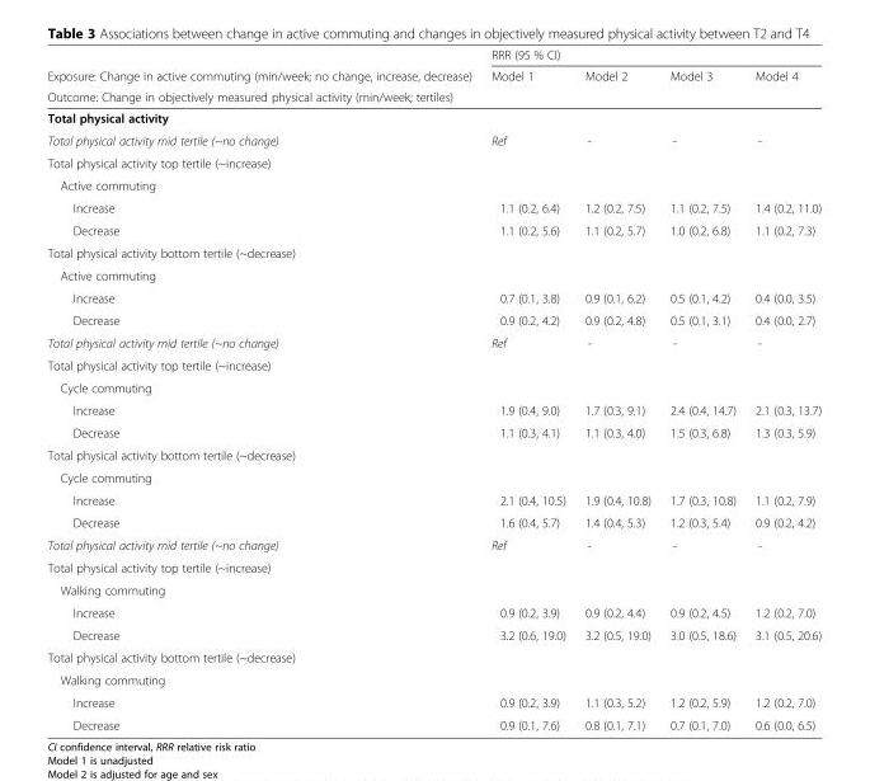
<table><thead><tr><td rowspan="3">Exposure: Change in active commuting (min/week; no change, increase, decrease) Outcome: Change in objectively measured physical activity (min/week; tertiles)</td><td colspan="4">RRR (95 % CI)</td></tr><tr><td rowspan="2">Model 1</td><td rowspan="2">Model 2</td><td rowspan="2">Model 3</td><td rowspan="2">Model 4</td></tr><tr></tr></thead><tbody><tr><td colspan="5">Total physical activity</td></tr><tr><td>Total physical activity mid tertile (~no change)</td><td>Ref</td><td>-</td><td>-</td><td>-</td></tr><tr><td colspan="5">Total physical activity top tertile (~increase)</td></tr><tr><td colspan="5">Active commuting</td></tr><tr><td>Increase</td><td>1.1 (0.2, 6.4)</td><td>1.2 (0.2, 7.5)</td><td>1.1 (0.2, 7.5)</td><td>1.4 (0.2, 11.0)</td></tr><tr><td>Decrease</td><td>1.1 (0.2, 5.6)</td><td>1.1 (0.2, 5.7)</td><td>1.0 (0.2, 6.8)</td><td>1.1 (0.2, 7.3)</td></tr><tr><td colspan="5">Total physical activity bottom tertile (~decrease)</td></tr><tr><td colspan="5">Active commuting</td></tr><tr><td>Increase</td><td>0.7 (0.1, 3.8)</td><td>0.9 (0.1, 6.2)</td><td>0.5 (0.1, 4.2)</td><td>0.4 (0.0, 3.5)</td></tr><tr><td>Decrease</td><td>0.9 (0.2, 4.2)</td><td>0.9 (0.2, 4.8)</td><td>0.5 (0.1, 3.1)</td><td>0.4 (0.0, 2.7)</td></tr><tr><td>Total physical activity mid tertile (~no change)</td><td>Ref</td><td>-</td><td>-</td><td>-</td></tr><tr><td colspan="5">Total physical activity top tertile (~increase)</td></tr><tr><td colspan="5">Cycle commuting</td></tr><tr><td>Increase</td><td>1.9 (0.4, 9.0)</td><td>1.7 (0.3, 9.1)</td><td>2.4 (0.4, 14.7)</td><td>2.1 (0.3, 13.7)</td></tr><tr><td>Decrease</td><td>1.1 (0.3, 4.1)</td><td>1.1 (0.3, 4.0)</td><td>1.5 (0.3, 6.8)</td><td>1.3 (0.3, 5.9)</td></tr><tr><td colspan="5">Total physical activity bottom tertile (~decrease)</td></tr><tr><td colspan="5">Cycle commuting</td></tr><tr><td>Increase</td><td>2.1 (0.4, 10.5)</td><td>1.9 (0.4, 10.8)</td><td>1.7 (0.3, 10.8)</td><td>1.1 (0.2, 7.9)</td></tr><tr><td>Decrease</td><td>1.6 (0.4, 5.7)</td><td>1.4 (0.4, 5.3)</td><td>1.2 (0.3, 5.4)</td><td>0.9 (0.2, 4.2)</td></tr><tr><td>Total physical activity mid tertile (~no change)</td><td>Ref</td><td>-</td><td>-</td><td>-</td></tr><tr><td colspan="5">Total physical activity top tertile (~increase)</td></tr><tr><td colspan="5">Walking commuting</td></tr><tr><td>Increase</td><td>0.9 (0.2, 3.9)</td><td>0.9 (0.2, 4.4)</td><td>0.9 (0.2, 4.5)</td><td>1.2 (0.2, 7.0)</td></tr><tr><td>Decrease</td><td>3.2 (0.6, 19.0)</td><td>3.2 (0.5, 19.0)</td><td>3.0 (0.5, 18.6)</td><td>3.1 (0.5, 20.6)</td></tr><tr><td colspan="5">Total physical activity bottom tertile (~decrease)</td></tr><tr><td colspan="5">Walking commuting</td></tr><tr><td>Increase</td><td>0.9 (0.2, 3.9)</td><td>1.1 (0.3, 5.2)</td><td>1.2 (0.2, 5.9)</td><td>1.2 (0.2, 7.0)</td></tr><tr><td>Decrease</td><td>0.9 (0.1, 7.6)</td><td>0.8 (0.1, 7.1)</td><td>0.7 (0.1, 7.0)</td><td>0.6 (0.0, 6.5)</td></tr></tbody></table>